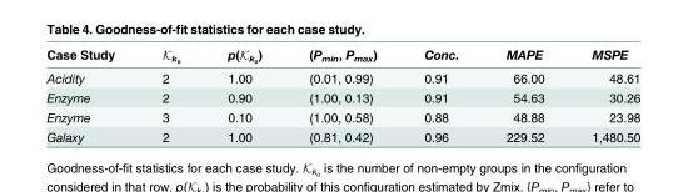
<table><thead><tr><td>Case Study</td><td>Kk0</td><td>p(Kk0)</td><td>(P<sub>min</sub>, P<sub>max</sub>)</td><td>Conc.</td><td>MAPE</td><td>MSPE</td></tr></thead><tbody><tr><td>Acidity</td><td>2</td><td>1.00</td><td>(0.01, 0.99)</td><td>0.91</td><td>66.00</td><td>48.61</td></tr><tr><td>Enzyme</td><td>2</td><td>0.90</td><td>(1.00, 0.13)</td><td>0.91</td><td>54.63</td><td>30.26</td></tr><tr><td>Enzyme</td><td>3</td><td>0.10</td><td>(1.00, 0.58)</td><td>0.88</td><td>48.88</td><td>23.98</td></tr><tr><td>Galaxy</td><td>2</td><td>1.00</td><td>(0.81, 0.42)</td><td>0.96</td><td>229.52</td><td>1,480.50</td></tr></tbody></table>